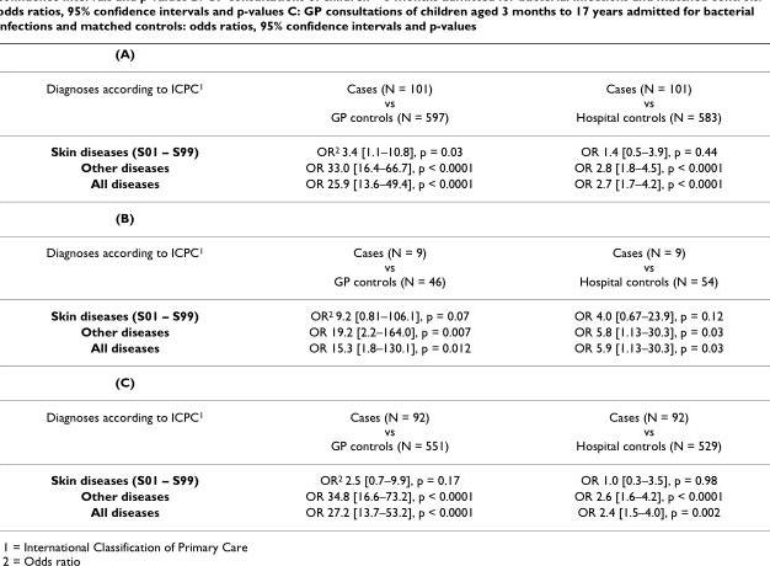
<table><thead><tr><td>(A)</td><td></td><td></td></tr></thead><tbody><tr><td>Diagnoses according to ICPC<sup>1</sup></td><td>Cases (N = 101) vs GP controls (N = 597)</td><td>Cases (N = 101) vs Hospital controls (N = 583)</td></tr><tr><td>Skin diseases (S01 – S99)</td><td>OR<sup>2</sup> 3.4 [1.1–10.8], p = 0.03</td><td>OR 1.4 [0.5–3.9], p = 0.44</td></tr><tr><td>Other diseases</td><td>OR 33.0 [16.4–66.7], p &lt; 0.0001</td><td>OR 2.8 [1.8–4.5], p &lt; 0.0001</td></tr><tr><td>All diseases</td><td>OR 25.9 [13.6–49.4], p &lt; 0.0001</td><td>OR 2.7 [1.7–4.2], p &lt; 0.0001</td></tr><tr><td colspan="3">(B)</td></tr><tr><td>Diagnoses according to ICPC<sup>1</sup></td><td>Cases (N = 9) vs GP controls (N = 46)</td><td>Cases (N = 9) vs Hospital controls (N = 54)</td></tr><tr><td>Skin diseases (S01 – S99)</td><td>OR<sup>2</sup> 9.2 [0.81–106.1], p = 0.07</td><td>OR 4.0 [0.67–23.9], p = 0.12</td></tr><tr><td>Other diseases</td><td>OR 19.2 [2.2–164.0], p = 0.007</td><td>OR 5.8 [1.13–30.3], p = 0.03</td></tr><tr><td>All diseases</td><td>OR 15.3 [1.8–130.1], p = 0.012</td><td>OR 5.9 [1.13–30.3], p = 0.03</td></tr><tr><td colspan="3">(C)</td></tr><tr><td>Diagnoses according to ICPC<sup>1</sup></td><td>Cases (N = 92) vs GP controls (N = 551)</td><td>Cases (N = 92) vs Hospital controls (N = 529)</td></tr><tr><td>Skin diseases (S01 – S99)</td><td>OR<sup>2</sup> 2.5 [0.7–9.9], p = 0.17</td><td>OR 1.0 [0.3–3.5], p = 0.98</td></tr><tr><td>Other diseases</td><td>OR 34.8 [16.6–73.2], p &lt; 0.0001</td><td>OR 2.6 [1.6–4.2], p &lt; 0.0001</td></tr><tr><td>All diseases</td><td>OR 27.2 [13.7–53.2], p &lt; 0.0001</td><td>OR 2.4 [1.5–4.0], p = 0.002</td></tr></tbody></table>